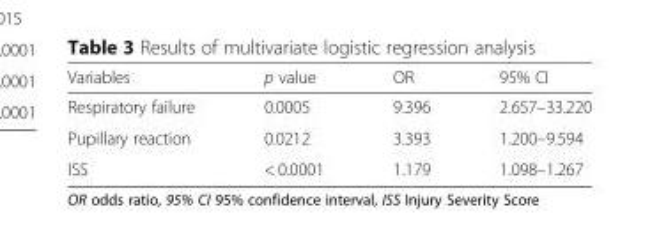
<table><thead><tr><td>Variables</td><td>p value</td><td>OR</td><td>95% CI</td></tr></thead><tbody><tr><td>Respiratory failure</td><td>0.0005</td><td>9.396</td><td>2.657–33.220</td></tr><tr><td>Pupillary reaction</td><td>0.0212</td><td>3.393</td><td>1.200–9.594</td></tr><tr><td>ISS</td><td>&lt; 0.0001</td><td>1.179</td><td>1.098–1.267</td></tr></tbody></table>